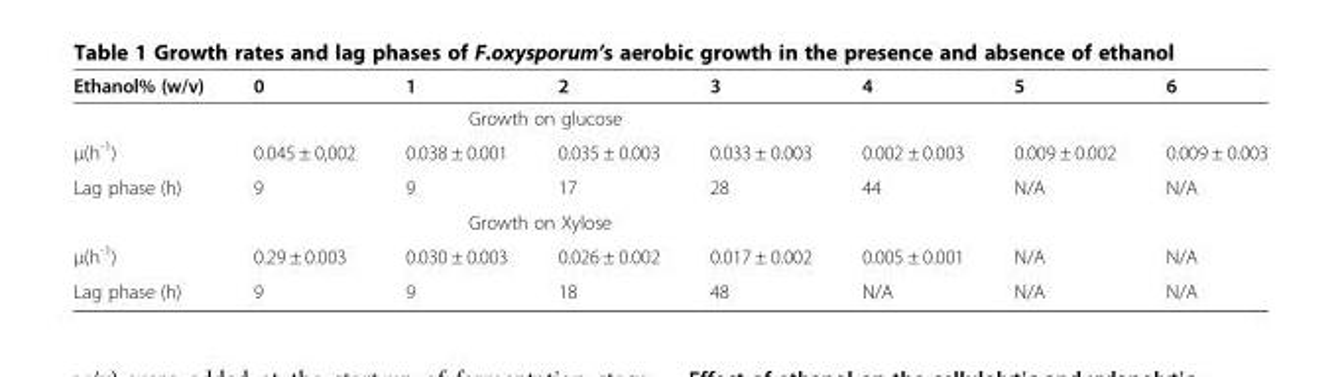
<table><thead><tr><td>Ethanol% (w/v)</td><td>0</td><td>1</td><td>2</td><td>3</td><td>4</td><td>5</td><td>6</td></tr></thead><tbody><tr><td colspan="8">Growth on glucose</td></tr><tr><td>μ(h<sup>-1</sup>)</td><td>0.045 ± 0,002</td><td>0.038 ± 0.001</td><td>0.035 ± 0.003</td><td>0.033 ± 0.003</td><td>0.002 ± 0.003</td><td>0.009 ± 0.002</td><td>0.009 ± 0.003</td></tr><tr><td>Lag phase (h)</td><td>9</td><td>9</td><td>17</td><td>28</td><td>44</td><td>N/A</td><td>N/A</td></tr><tr><td colspan="8">Growth on Xylose</td></tr><tr><td>μ(h<sup>-1</sup>)</td><td>0.29 ± 0.003</td><td>0.030 ± 0.003</td><td>0.026 ± 0.002</td><td>0.017 ± 0.002</td><td>0.005 ± 0.001</td><td>N/A</td><td>N/A</td></tr><tr><td>Lag phase (h)</td><td>9</td><td>9</td><td>18</td><td>48</td><td>N/A</td><td>N/A</td><td>N/A</td></tr></tbody></table>